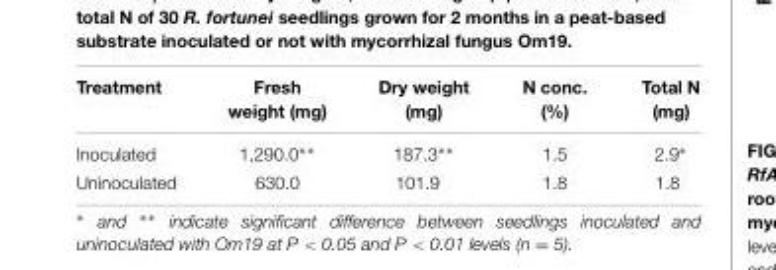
<table><thead><tr><td>Treatment</td><td>Fresh weight (mg)</td><td>Dry weight (mg)</td><td>N conc. (%)</td><td>Total N (mg)</td></tr></thead><tbody><tr><td>Inoculated</td><td>1,290.0∗∗</td><td>187.3∗∗</td><td>1.5</td><td>2.9∗</td></tr><tr><td>Uninoculated</td><td>630.0</td><td>101.9</td><td>1.8</td><td>1.8</td></tr></tbody></table>